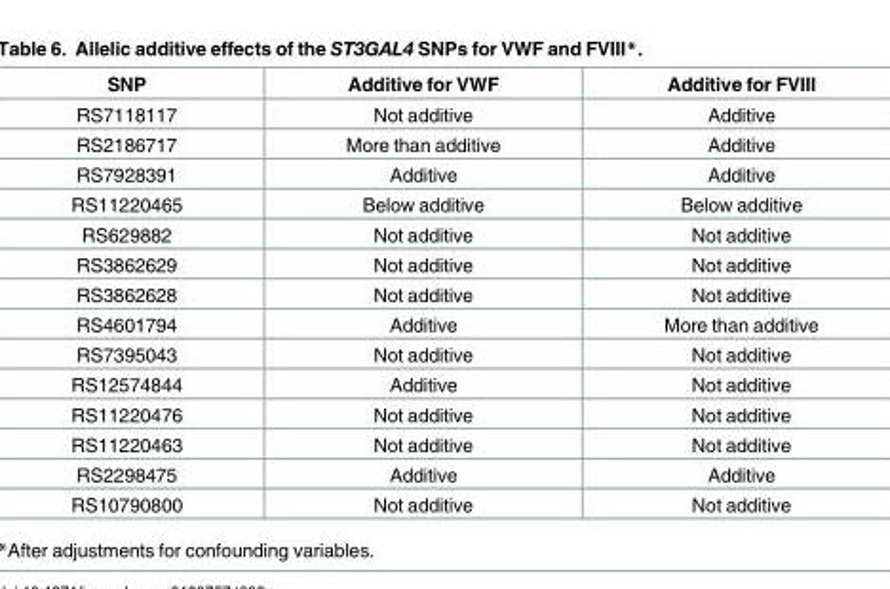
<table><thead><tr><td>SNP</td><td>Additive for VWF</td><td>Additive for FVIII</td></tr></thead><tbody><tr><td>RS7118117</td><td>Not additive</td><td>Additive</td></tr><tr><td>RS2186717</td><td>More than additive</td><td>Additive</td></tr><tr><td>RS7928391</td><td>Additive</td><td>Additive</td></tr><tr><td>RS11220465</td><td>Below additive</td><td>Below additive</td></tr><tr><td>RS629882</td><td>Not additive</td><td>Not additive</td></tr><tr><td>RS3862629</td><td>Not additive</td><td>Not additive</td></tr><tr><td>RS3862628</td><td>Not additive</td><td>Not additive</td></tr><tr><td>RS4601794</td><td>Additive</td><td>More than additive</td></tr><tr><td>RS7395043</td><td>Not additive</td><td>Not additive</td></tr><tr><td>RS12574844</td><td>Additive</td><td>Not additive</td></tr><tr><td>RS11220476</td><td>Not additive</td><td>Not additive</td></tr><tr><td>RS11220463</td><td>Not additive</td><td>Not additive</td></tr><tr><td>RS2298475</td><td>Additive</td><td>Additive</td></tr><tr><td>RS10790800</td><td>Not additive</td><td>Not additive</td></tr></tbody></table>